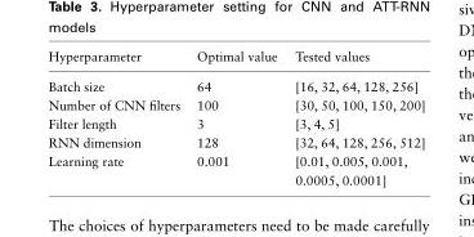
<table><thead><tr><td>Hyperparameter</td><td>Optimal value</td><td>Tested values</td></tr></thead><tbody><tr><td>Batch size</td><td>64</td><td>[16, 32, 64, 128, 256]</td></tr><tr><td>Number of CNN filters</td><td>100</td><td>[30, 50, 100, 150, 200]</td></tr><tr><td>Filter length</td><td>3</td><td>[3, 4, 5]</td></tr><tr><td>RNN dimension</td><td>128</td><td>[32, 64, 128, 256, 512]</td></tr><tr><td>Learning rate</td><td>0.001</td><td>[0.01, 0.005, 0.001, 0.0005, 0.0001]</td></tr></tbody></table>